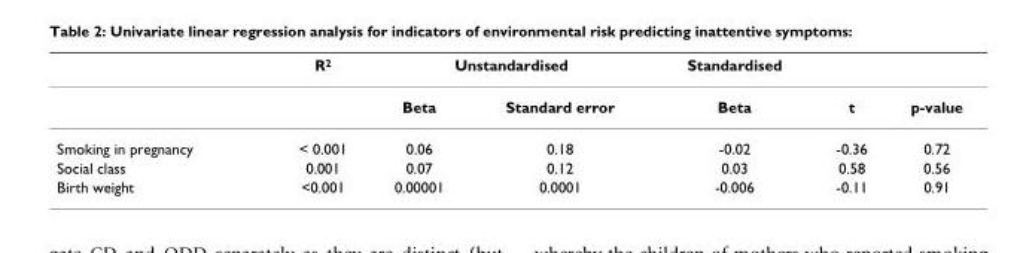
<table><thead><tr><td rowspan="2"></td><td rowspan="2">R2</td><td colspan="2">Unstandardised</td><td rowspan="2">Standardised Beta</td><td rowspan="2">t</td><td rowspan="2">p-value</td></tr><tr><td>Beta</td><td>Standard error</td></tr></thead><tbody><tr><td>Smoking in pregnancy</td><td>&lt; 0.001</td><td>0.06</td><td>0.18</td><td>-0.02</td><td>-0.36</td><td>0.72</td></tr><tr><td>Social class</td><td>0.001</td><td>0.07</td><td>0.12</td><td>0.03</td><td>0.58</td><td>0.56</td></tr><tr><td>Birth weight</td><td>&lt;0.001</td><td>0.00001</td><td>0.0001</td><td>-0.006</td><td>-0.11</td><td>0.91</td></tr></tbody></table>